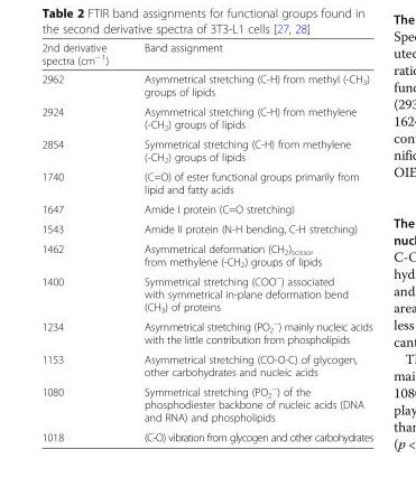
<table><thead><tr><td>2nd derivative spectra (cm<sup>− 1</sup>)</td><td>Band assignment</td></tr></thead><tbody><tr><td>2962</td><td>Asymmetrical stretching (C-H) from methyl (-CH<sub>3</sub>) groups of lipids</td></tr><tr><td>2924</td><td>Asymmetrical stretching (C-H) from methylene (-CH<sub>2</sub>) groups of lipids</td></tr><tr><td>2854</td><td>Symmetrical stretching (C-H) from methylene (-CH<sub>2</sub>) groups of lipids</td></tr><tr><td>1740</td><td>(C=O) of ester functional groups primarily from lipid and fatty acids</td></tr><tr><td>1647</td><td>Amide I protein (C=O stretching)</td></tr><tr><td>1543</td><td>Amide II protein (N-H bending, C-H stretching)</td></tr><tr><td>1462</td><td>Asymmetrical deformation (CH<sub>2</sub>)<sub>scissor</sub> from methylene (-CH<sub>2</sub>) groups of lipids</td></tr><tr><td>1400</td><td>Symmetrical stretching (COO<sup>−</sup>) associated with symmetrical in-plane deformation bend (CH<sub>3</sub>) of proteins</td></tr><tr><td>1234</td><td>Asymmetrical stretching (PO<sub>2</sub> <sup>−</sup>) mainly nucleic acids with the little contribution from phospholipids</td></tr><tr><td>1153</td><td>Asymmetrical stretching (CO-O-C) of glycogen, other carbohydrates and nucleic acids</td></tr><tr><td>1080</td><td>Symmetrical stretching (PO<sub>2</sub> <sup>−</sup>) of the phosphodiester backbone of nucleic acids (DNA and RNA) and phospholipids</td></tr><tr><td>1018</td><td>(C-O) vibration from glycogen and other carbohydrates</td></tr></tbody></table>